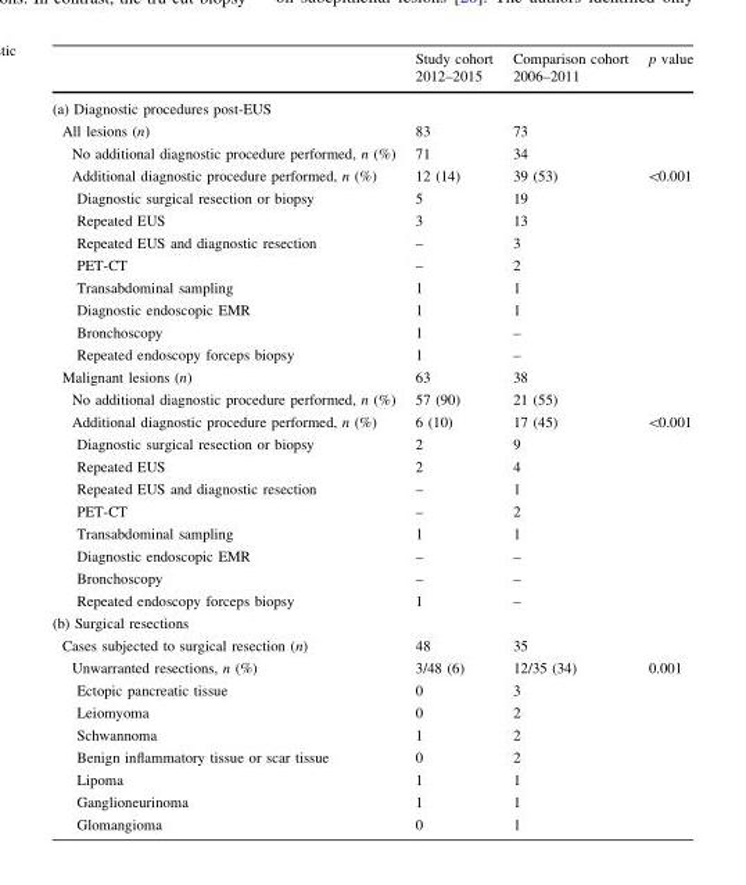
<table><thead><tr><td rowspan="2"></td><td rowspan="2">Study cohort 2012–2015</td><td rowspan="2">Comparison cohort 2006–2011</td><td rowspan="2">p value</td></tr><tr></tr></thead><tbody><tr><td colspan="4">(a) Diagnostic procedures post-EUS</td></tr><tr><td>All lesions (n)</td><td>83</td><td>73</td><td></td></tr><tr><td>No additional diagnostic procedure performed, n (%)</td><td>71</td><td>34</td><td></td></tr><tr><td>Additional diagnostic procedure performed, n (%)</td><td>12 (14)</td><td>39 (53)</td><td>&lt;0.001</td></tr><tr><td>Diagnostic surgical resection or biopsy</td><td>5</td><td>19</td><td></td></tr><tr><td>Repeated EUS</td><td>3</td><td>13</td><td></td></tr><tr><td>Repeated EUS and diagnostic resection</td><td>–</td><td>3</td><td></td></tr><tr><td>PET-CT</td><td>–</td><td>2</td><td></td></tr><tr><td>Transabdominal sampling</td><td>1</td><td>1</td><td></td></tr><tr><td>Diagnostic endoscopic EMR</td><td>1</td><td>1</td><td></td></tr><tr><td>Bronchoscopy</td><td>1</td><td>–</td><td></td></tr><tr><td>Repeated endoscopy forceps biopsy</td><td>1</td><td>–</td><td></td></tr><tr><td>Malignant lesions (n)</td><td>63</td><td>38</td><td></td></tr><tr><td>No additional diagnostic procedure performed, n (%)</td><td>57 (90)</td><td>21 (55)</td><td></td></tr><tr><td>Additional diagnostic procedure performed, n (%)</td><td>6 (10)</td><td>17 (45)</td><td>&lt;0.001</td></tr><tr><td>Diagnostic surgical resection or biopsy</td><td>2</td><td>9</td><td></td></tr><tr><td>Repeated EUS</td><td>2</td><td>4</td><td></td></tr><tr><td>Repeated EUS and diagnostic resection</td><td>–</td><td>1</td><td></td></tr><tr><td>PET-CT</td><td>–</td><td>2</td><td></td></tr><tr><td>Transabdominal sampling</td><td>1</td><td>1</td><td></td></tr><tr><td>Diagnostic endoscopic EMR</td><td>–</td><td>–</td><td></td></tr><tr><td>Bronchoscopy</td><td>–</td><td>–</td><td></td></tr><tr><td>Repeated endoscopy forceps biopsy</td><td>1</td><td>–</td><td></td></tr><tr><td colspan="4">(b) Surgical resections</td></tr><tr><td>Cases subjected to surgical resection (n)</td><td>48</td><td>35</td><td></td></tr><tr><td>Unwarranted resections, n (%)</td><td>3/48 (6)</td><td>12/35 (34)</td><td>0.001</td></tr><tr><td>Ectopic pancreatic tissue</td><td>0</td><td>3</td><td></td></tr><tr><td>Leiomyoma</td><td>0</td><td>2</td><td></td></tr><tr><td>Schwannoma</td><td>1</td><td>2</td><td></td></tr><tr><td>Benign inflammatory tissue or scar tissue</td><td>0</td><td>2</td><td></td></tr><tr><td>Lipoma</td><td>1</td><td>1</td><td></td></tr><tr><td>Ganglioneurinoma</td><td>1</td><td>1</td><td></td></tr><tr><td>Glomangioma</td><td>0</td><td>1</td><td></td></tr></tbody></table>